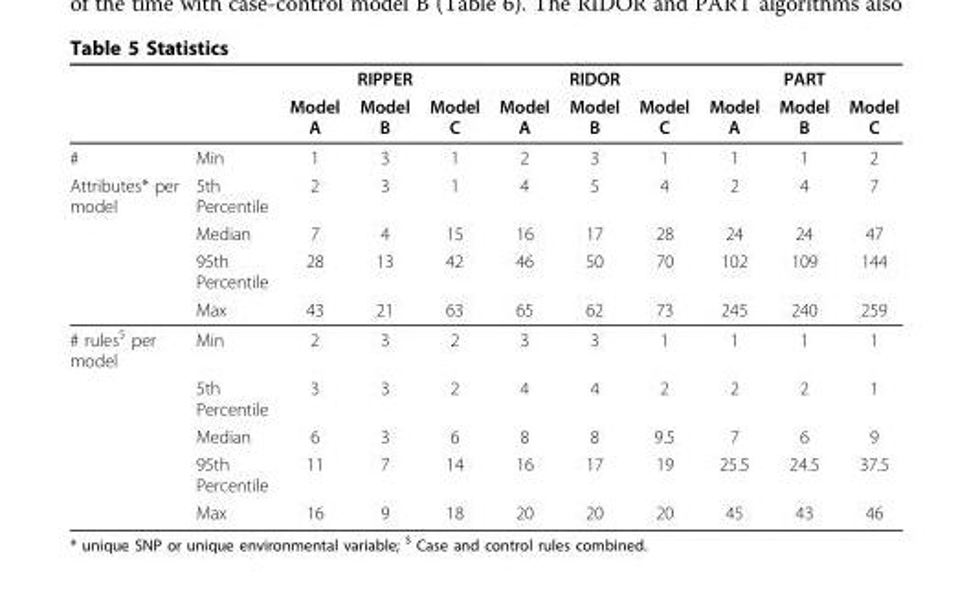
<table><thead><tr><td rowspan="2"></td><td rowspan="2"></td><td colspan="3">RIPPER</td><td colspan="3">RIDOR</td><td colspan="3">PART</td></tr><tr><td>Model A</td><td>Model B</td><td>Model C</td><td>Model A</td><td>Model B</td><td>Model C</td><td>Model A</td><td>Model B</td><td>Model C</td></tr></thead><tbody><tr><td>#</td><td>Min</td><td>1</td><td>3</td><td>1</td><td>2</td><td>3</td><td>1</td><td>1</td><td>1</td><td>2</td></tr><tr><td rowspan="4">Attributes* per model</td><td>5th Percentile</td><td>2</td><td>3</td><td>1</td><td>4</td><td>5</td><td>4</td><td>2</td><td>4</td><td>7</td></tr><tr><td>Median</td><td>7</td><td>4</td><td>15</td><td>16</td><td>17</td><td>28</td><td>24</td><td>24</td><td>47</td></tr><tr><td>95th Percentile</td><td>28</td><td>13</td><td>42</td><td>46</td><td>50</td><td>70</td><td>102</td><td>109</td><td>144</td></tr><tr><td>Max</td><td>43</td><td>21</td><td>63</td><td>65</td><td>62</td><td>73</td><td>245</td><td>240</td><td>259</td></tr><tr><td rowspan="5"># rules$ per model</td><td>Min</td><td>2</td><td>3</td><td>2</td><td>3</td><td>3</td><td>1</td><td>1</td><td>1</td><td>1</td></tr><tr><td>5th Percentile</td><td>3</td><td>3</td><td>2</td><td>4</td><td>4</td><td>2</td><td>2</td><td>2</td><td>1</td></tr><tr><td>Median</td><td>6</td><td>3</td><td>6</td><td>8</td><td>8</td><td>9.5</td><td>7</td><td>6</td><td>9</td></tr><tr><td>95th Percentile</td><td>11</td><td>7</td><td>14</td><td>16</td><td>17</td><td>19</td><td>25.5</td><td>24.5</td><td>37.5</td></tr><tr><td>Max</td><td>16</td><td>9</td><td>18</td><td>20</td><td>20</td><td>20</td><td>45</td><td>43</td><td>46</td></tr></tbody></table>